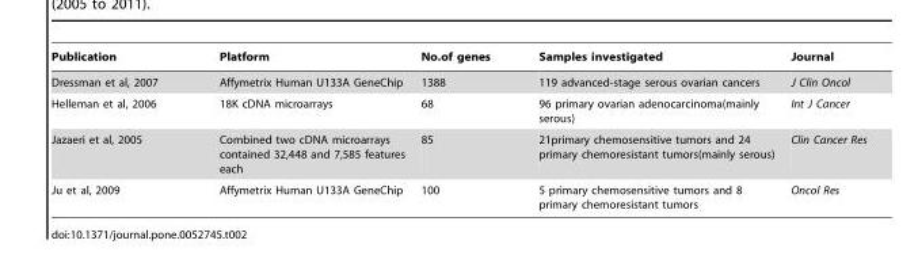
<table><thead><tr><td>Publication</td><td>Platform</td><td>No.of genes</td><td>Samples investigated</td><td>Journal</td></tr></thead><tbody><tr><td>Dressman et al, 2007</td><td>Affymetrix Human U133A GeneChip</td><td>1388</td><td>119 advanced-stage serous ovarian cancers</td><td>J Clin Oncol</td></tr><tr><td>Helleman et al, 2006</td><td>18K cDNA microarrays</td><td>68</td><td>96 primary ovarian adenocarcinoma(mainly serous)</td><td>Int J Cancer</td></tr><tr><td>Jazaeri et al, 2005</td><td>Combined two cDNA microarrays contained 32,448 and 7,585 features each</td><td>85</td><td>21primary chemosensitive tumors and 24 primary chemoresistant tumors(mainly serous)</td><td>Clin Cancer Res</td></tr><tr><td>Ju et al, 2009</td><td>Affymetrix Human U133A GeneChip</td><td>100</td><td>5 primary chemosensitive tumors and 8 primary chemoresistant tumors</td><td>Oncol Res</td></tr></tbody></table>